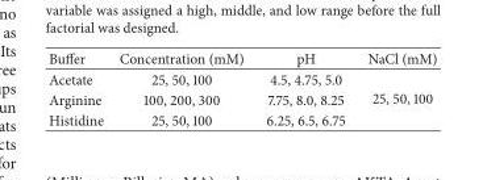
<table><thead><tr><td>Buffer</td><td>Concentration (mM)</td><td>pH</td><td>NaCl (mM)</td></tr></thead><tbody><tr><td>Acetate</td><td>25, 50, 100</td><td>4.5, 4.75, 5.0</td><td rowspan="3">25, 50, 100</td></tr><tr><td>Arginine</td><td>100, 200, 300</td><td>7.75, 8.0, 8.25</td></tr><tr><td>Histidine</td><td>25, 50, 100</td><td>6.25, 6.5, 6.75</td></tr></tbody></table>